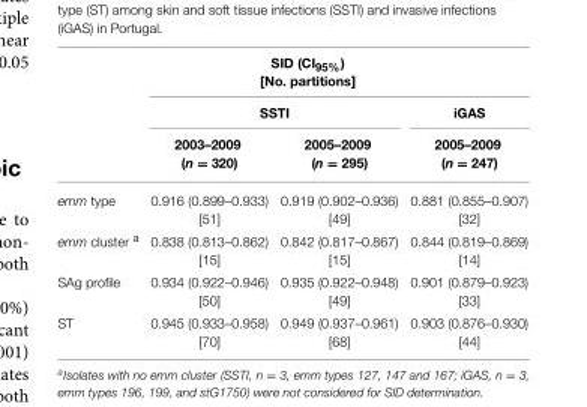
<table><thead><tr><td rowspan="3"></td><td colspan="3">SID (CI<sub>95%</sub>) [No. partitions]</td></tr><tr><td colspan="2">SSTI</td><td rowspan="2">iGAS 2005–2009 (n = 247)</td></tr><tr><td>2003–2009 (n = 320)</td><td>2005–2009 (n = 295)</td></tr></thead><tbody><tr><td>emm type</td><td>0.916 (0.899–0.933) [51]</td><td>0.919 (0.902–0.936) [49]</td><td>0.881 (0.855–0.907) [32]</td></tr><tr><td>emm cluster <sup>a</sup></td><td>0.838 (0.813–0.862) [15]</td><td>0.842 (0.817–0.867) [15]</td><td>0.844 (0.819–0.869) [14]</td></tr><tr><td>SAg profile</td><td>0.934 (0.922–0.946) [50]</td><td>0.935 (0.922–0.948) [49]</td><td>0.901 (0.879–0.923) [33]</td></tr><tr><td>ST</td><td>0.945 (0.933–0.958) [70]</td><td>0.949 (0.937–0.961) [68]</td><td>0.903 (0.876–0.930) [44]</td></tr></tbody></table>